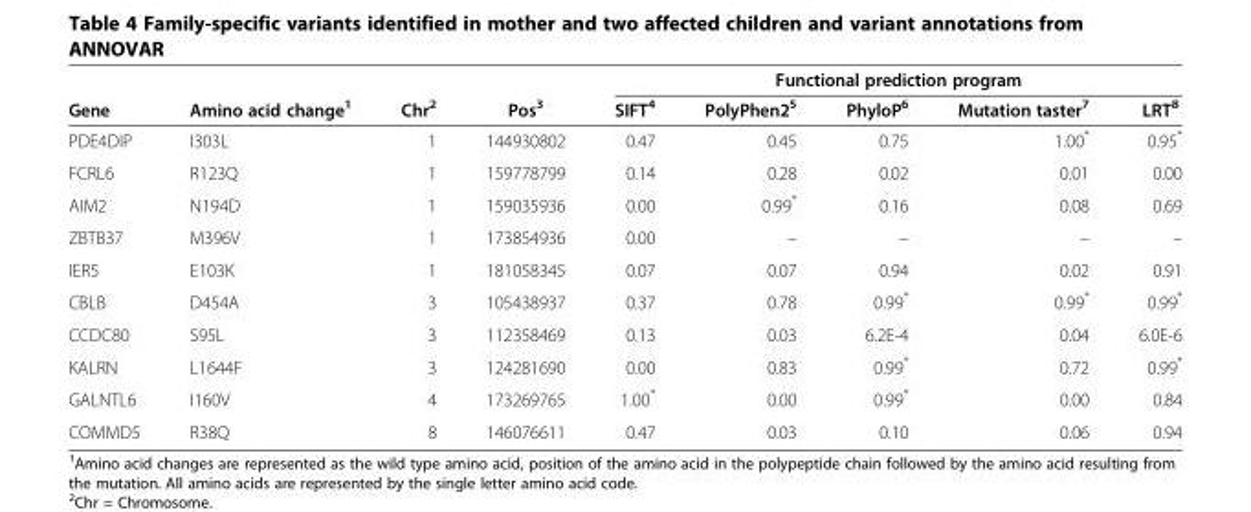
<table><thead><tr><td rowspan="2">Gene</td><td rowspan="2">Amino acid change<sup>1</sup></td><td rowspan="2">Chr<sup>2</sup></td><td rowspan="2">Pos<sup>3</sup></td><td colspan="5">Functional prediction program</td></tr><tr><td>SIFT<sup>4</sup></td><td>PolyPhen2<sup>5</sup></td><td>PhyloP<sup>6</sup></td><td>Mutation taster<sup>7</sup></td><td>LRT<sup>8</sup></td></tr></thead><tbody><tr><td>PDE4DIP</td><td>I303L</td><td>1</td><td>144930802</td><td>0.47</td><td>0.45</td><td>0.75</td><td>1.00*</td><td>0.95*</td></tr><tr><td>FCRL6</td><td>R123Q</td><td>1</td><td>159778799</td><td>0.14</td><td>0.28</td><td>0.02</td><td>0.01</td><td>0.00</td></tr><tr><td>AIM2</td><td>N194D</td><td>1</td><td>159035936</td><td>0.00</td><td>0.99*</td><td>0.16</td><td>0.08</td><td>0.69</td></tr><tr><td>ZBTB37</td><td>M396V</td><td>1</td><td>173854936</td><td>0.00</td><td>–</td><td>–</td><td>–</td><td>–</td></tr><tr><td>IER5</td><td>E103K</td><td>1</td><td>181058345</td><td>0.07</td><td>0.07</td><td>0.94</td><td>0.02</td><td>0.91</td></tr><tr><td>CBLB</td><td>D454A</td><td>3</td><td>105438937</td><td>0.37</td><td>0.78</td><td>0.99*</td><td>0.99*</td><td>0.99*</td></tr><tr><td>CCDC80</td><td>S95L</td><td>3</td><td>112358469</td><td>0.13</td><td>0.03</td><td>6.2E-4</td><td>0.04</td><td>6.0E-6</td></tr><tr><td>KALRN</td><td>L1644F</td><td>3</td><td>124281690</td><td>0.00</td><td>0.83</td><td>0.99*</td><td>0.72</td><td>0.99*</td></tr><tr><td>GALNTL6</td><td>I160V</td><td>4</td><td>173269765</td><td>1.00*</td><td>0.00</td><td>0.99*</td><td>0.00</td><td>0.84</td></tr><tr><td>COMMD5</td><td>R38Q</td><td>8</td><td>146076611</td><td>0.47</td><td>0.03</td><td>0.10</td><td>0.06</td><td>0.94</td></tr></tbody></table>